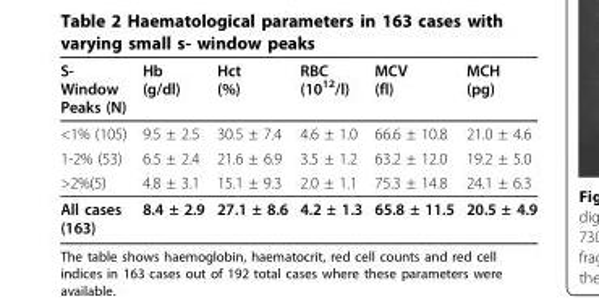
<table><thead><tr><td>S- Window Peaks (N)</td><td>Hb (g/dl)</td><td>Hct (%)</td><td>RBC (10<sup>12</sup>/l)</td><td>MCV (fl)</td><td>MCH (pg)</td></tr></thead><tbody><tr><td>&lt;1% (105)</td><td>9.5 ± 2.5</td><td>30.5 ± 7.4</td><td>4.6 ± 1.0</td><td>66.6 ± 10.8</td><td>21.0 ± 4.6</td></tr><tr><td>1-2% (53)</td><td>6.5 ± 2.4</td><td>21.6 ± 6.9</td><td>3.5 ± 1.2</td><td>63.2 ± 12.0</td><td>19.2 ± 5.0</td></tr><tr><td>&gt;2%(5)</td><td>4.8 ± 3.1</td><td>15.1 ± 9.3</td><td>2.0 ± 1.1</td><td>75.3 ± 14.8</td><td>24.1 ± 6.3</td></tr><tr><td>All cases (163)</td><td>8.4 ± 2.9</td><td>27.1 ± 8.6</td><td>4.2 ± 1.3</td><td>65.8 ± 11.5</td><td>20.5 ± 4.9</td></tr></tbody></table>